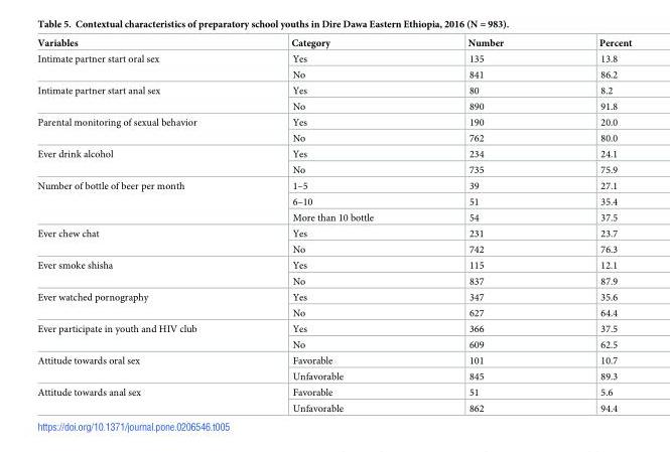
<table><thead><tr><td>Variables</td><td>Category</td><td>Number</td><td>Percent</td></tr></thead><tbody><tr><td rowspan="2">Intimate partner start oral sex</td><td>Yes</td><td>135</td><td>13.8</td></tr><tr><td>No</td><td>841</td><td>86.2</td></tr><tr><td rowspan="2">Intimate partner start anal sex</td><td>Yes</td><td>80</td><td>8.2</td></tr><tr><td>No</td><td>890</td><td>91.8</td></tr><tr><td rowspan="2">Parental monitoring of sexual behavior</td><td>Yes</td><td>190</td><td>20.0</td></tr><tr><td>No</td><td>762</td><td>80.0</td></tr><tr><td rowspan="2">Ever drink alcohol</td><td>Yes</td><td>234</td><td>24.1</td></tr><tr><td>No</td><td>735</td><td>75.9</td></tr><tr><td rowspan="3">Number of bottle of beer per month</td><td>1–5</td><td>39</td><td>27.1</td></tr><tr><td>6–10</td><td>51</td><td>35.4</td></tr><tr><td>More than 10 bottle</td><td>54</td><td>37.5</td></tr><tr><td rowspan="2">Ever chew chat</td><td>Yes</td><td>231</td><td>23.7</td></tr><tr><td>No</td><td>742</td><td>76.3</td></tr><tr><td rowspan="2">Ever smoke shisha</td><td>Yes</td><td>115</td><td>12.1</td></tr><tr><td>No</td><td>837</td><td>87.9</td></tr><tr><td rowspan="2">Ever watched pornography</td><td>Yes</td><td>347</td><td>35.6</td></tr><tr><td>No</td><td>627</td><td>64.4</td></tr><tr><td rowspan="2">Ever participate in youth and HIV club</td><td>Yes</td><td>366</td><td>37.5</td></tr><tr><td>No</td><td>609</td><td>62.5</td></tr><tr><td rowspan="2">Attitude towards oral sex</td><td>Favorable</td><td>101</td><td>10.7</td></tr><tr><td>Unfavorable</td><td>845</td><td>89.3</td></tr><tr><td rowspan="2">Attitude towards anal sex</td><td>Favorable</td><td>51</td><td>5.6</td></tr><tr><td>Unfavorable</td><td>862</td><td>94.4</td></tr></tbody></table>